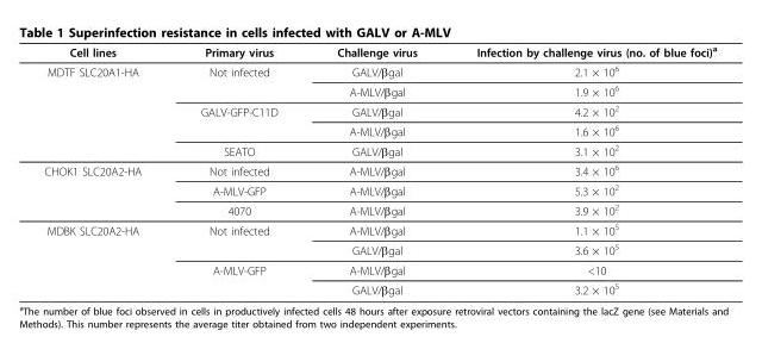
<table><thead><tr><td>Cell lines</td><td>Primary virus</td><td>Challenge virus</td><td>Infection by challenge virus (no. of blue foci)<sup>a</sup></td></tr></thead><tbody><tr><td rowspan="5">MDTF SLC20A1-HA</td><td>Not infected</td><td>GALV/βgal</td><td>2.1 × 10<sup>6</sup></td></tr><tr><td></td><td>A-MLV/βgal</td><td>1.9 × 10<sup>6</sup></td></tr><tr><td>GALV-GFP-C11D</td><td>GALV/βgal</td><td>4.2 × 10<sup>2</sup></td></tr><tr><td></td><td>A-MLV/βgal</td><td>1.6 × 10<sup>6</sup></td></tr><tr><td>SEATO</td><td>GALV/βgal</td><td>3.1 × 10<sup>2</sup></td></tr><tr><td rowspan="3">CHOK1 SLC20A2-HA</td><td>Not infected</td><td>A-MLV/βgal</td><td>3.4 × 10<sup>6</sup></td></tr><tr><td>A-MLV-GFP</td><td>A-MLV/βgal</td><td>5.3 × 10<sup>2</sup></td></tr><tr><td>4070</td><td>A-MLV/βgal</td><td>3.9 × 10<sup>2</sup></td></tr><tr><td rowspan="4">MDBK SLC20A2-HA</td><td>Not infected</td><td>A-MLV/βgal</td><td>1.1 × 10<sup>5</sup></td></tr><tr><td></td><td>GALV/βgal</td><td>3.6 × 10<sup>5</sup></td></tr><tr><td>A-MLV-GFP</td><td>A-MLV/βgal</td><td>&lt;10</td></tr><tr><td></td><td>GALV/βgal</td><td>3.2 × 10<sup>5</sup></td></tr></tbody></table>